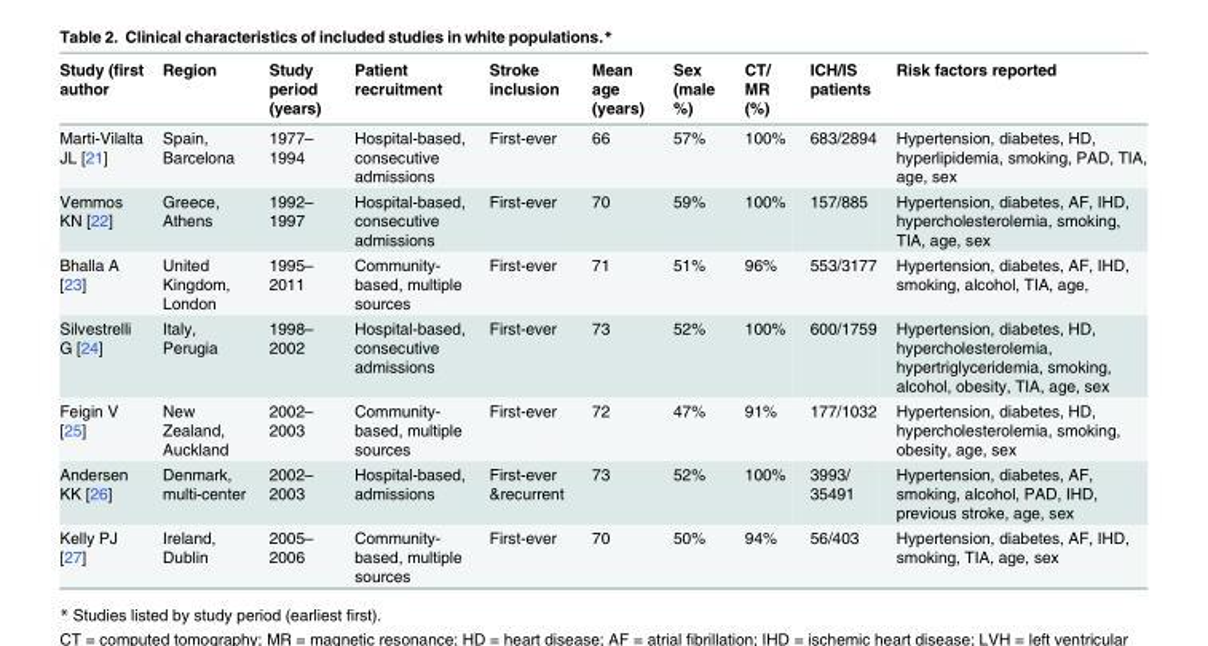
<table><thead><tr><td>Study (first author</td><td>Region</td><td>Study period (years)</td><td>Patient recruitment</td><td>Stroke inclusion</td><td>Mean age (years)</td><td>Sex (male %)</td><td>CT/ MR (%)</td><td>ICH/IS patients</td><td>Risk factors reported</td></tr></thead><tbody><tr><td>Marti-Vilalta JL [21]</td><td>Spain, Barcelona</td><td>1977– 1994</td><td>Hospital-based, consecutive admissions</td><td>First-ever</td><td>66</td><td>57%</td><td>100%</td><td>683/2894</td><td>Hypertension, diabetes, HD, hyperlipidemia, smoking, PAD, TIA, age, sex</td></tr><tr><td>Vemmos KN [22]</td><td>Greece, Athens</td><td>1992– 1997</td><td>Hospital-based, consecutive admissions</td><td>First-ever</td><td>70</td><td>59%</td><td>100%</td><td>157/885</td><td>Hypertension, diabetes, AF, IHD, hypercholesterolemia, smoking, TIA, age, sex</td></tr><tr><td>Bhalla A [23]</td><td>United Kingdom, London</td><td>1995– 2011</td><td>Community- based, multiple sources</td><td>First-ever</td><td>71</td><td>51%</td><td>96%</td><td>553/3177</td><td>Hypertension, diabetes, AF, IHD, smoking, alcohol, TIA, age,</td></tr><tr><td>Silvestrelli G [24]</td><td>Italy, Perugia</td><td>1998– 2002</td><td>Hospital-based, consecutive admissions</td><td>First-ever</td><td>73</td><td>52%</td><td>100%</td><td>600/1759</td><td>Hypertension, diabetes, HD, hypercholesterolemia, hypertriglyceridemia, smoking, alcohol, obesity, TIA, age, sex</td></tr><tr><td>Feigin V [25]</td><td>New Zealand, Auckland</td><td>2002– 2003</td><td>Community- based, multiple sources</td><td>First-ever</td><td>72</td><td>47%</td><td>91%</td><td>177/1032</td><td>Hypertension, diabetes, HD, hypercholesterolemia, smoking, obesity, age, sex</td></tr><tr><td>Andersen KK [26]</td><td>Denmark, multi-center</td><td>2002– 2003</td><td>Hospital-based, admissions</td><td>First-ever &amp;recurrent</td><td>73</td><td>52%</td><td>100%</td><td>3993/ 35491</td><td>Hypertension, diabetes, AF, smoking, alcohol, PAD, IHD, previous stroke, age, sex</td></tr><tr><td>Kelly PJ [27]</td><td>Ireland, Dublin</td><td>2005– 2006</td><td>Community- based, multiple sources</td><td>First-ever</td><td>70</td><td>50%</td><td>94%</td><td>56/403</td><td>Hypertension, diabetes, AF, IHD, smoking, TIA, age, sex</td></tr></tbody></table>